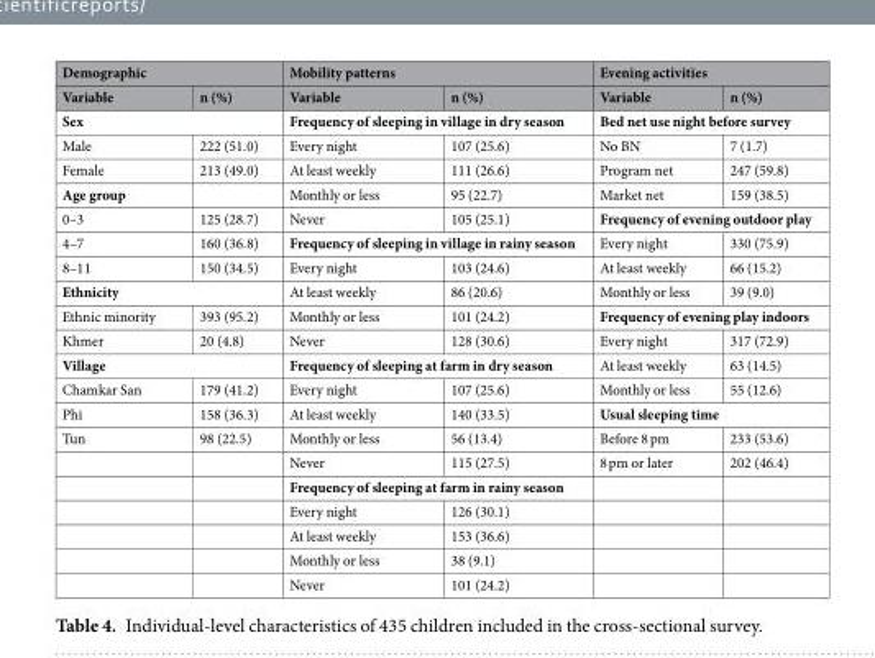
<table><thead><tr><td colspan="2">Demographic</td><td colspan="2">Mobility patterns</td><td colspan="2">Evening activities</td></tr><tr><td>Variable</td><td>n (%)</td><td>Variable</td><td>n (%)</td><td>Variable</td><td>n (%)</td></tr></thead><tbody><tr><td colspan="2">Sex</td><td colspan="2">Frequency of sleeping in village in dry season</td><td colspan="2">Bed net use night before survey</td></tr><tr><td>Male</td><td>222 (51.0)</td><td>Every night</td><td>107 (25.6)</td><td>No BN</td><td>7 (1.7)</td></tr><tr><td>Female</td><td>213 (49.0)</td><td>At least weekly</td><td>111 (26.6)</td><td>Program net</td><td>247 (59.8)</td></tr><tr><td>Age group</td><td></td><td>Monthly or less</td><td>95 (22.7)</td><td>Market net</td><td>159 (38.5)</td></tr><tr><td>0–3</td><td>125 (28.7)</td><td>Never</td><td>105 (25.1)</td><td colspan="2">Frequency of evening outdoor play</td></tr><tr><td>4–7</td><td>160 (36.8)</td><td colspan="2">Frequency of sleeping in village in rainy season</td><td>Every night</td><td>330 (75.9)</td></tr><tr><td>8–11</td><td>150 (34.5)</td><td>Every night</td><td>103 (24.6)</td><td>At least weekly</td><td>66 (15.2)</td></tr><tr><td colspan="2">Ethnicity</td><td>At least weekly</td><td>86 (20.6)</td><td>Monthly or less</td><td>39 (9.0)</td></tr><tr><td>Ethnic minority</td><td>393 (95.2)</td><td>Monthly or less</td><td>101 (24.2)</td><td colspan="2">Frequency of evening play indoors</td></tr><tr><td>Khmer</td><td>20 (4.8)</td><td>Never</td><td>128 (30.6)</td><td>Every night</td><td>317 (72.9)</td></tr><tr><td colspan="2">Village</td><td colspan="2">Frequency of sleeping at farm in dry season</td><td>At least weekly</td><td>63 (14.5)</td></tr><tr><td>Chamkar San</td><td>179 (41.2)</td><td>Every night</td><td>107 (25.6)</td><td>Monthly or less</td><td>55 (12.6)</td></tr><tr><td>Phi</td><td>158 (36.3)</td><td>At least weekly</td><td>140 (33.5)</td><td colspan="2">Usual sleeping time</td></tr><tr><td rowspan="7">Tun</td><td>98 (22.5)</td><td>Monthly or less</td><td>56 (13.4)</td><td>Before 8 pm</td><td>233 (53.6)</td></tr><tr><td></td><td>Never</td><td>115 (27.5)</td><td>8 pm or later</td><td>202 (46.4)</td></tr><tr><td></td><td colspan="2">Frequency of sleeping at farm in rainy season</td><td></td><td></td></tr><tr><td></td><td>Every night</td><td>126 (30.1)</td><td></td><td></td></tr><tr><td></td><td>At least weekly</td><td>153 (36.6)</td><td></td><td></td></tr><tr><td></td><td>Monthly or less</td><td>38 (9.1)</td><td></td><td></td></tr><tr><td></td><td>Never</td><td>101 (24.2)</td><td></td><td></td></tr></tbody></table>